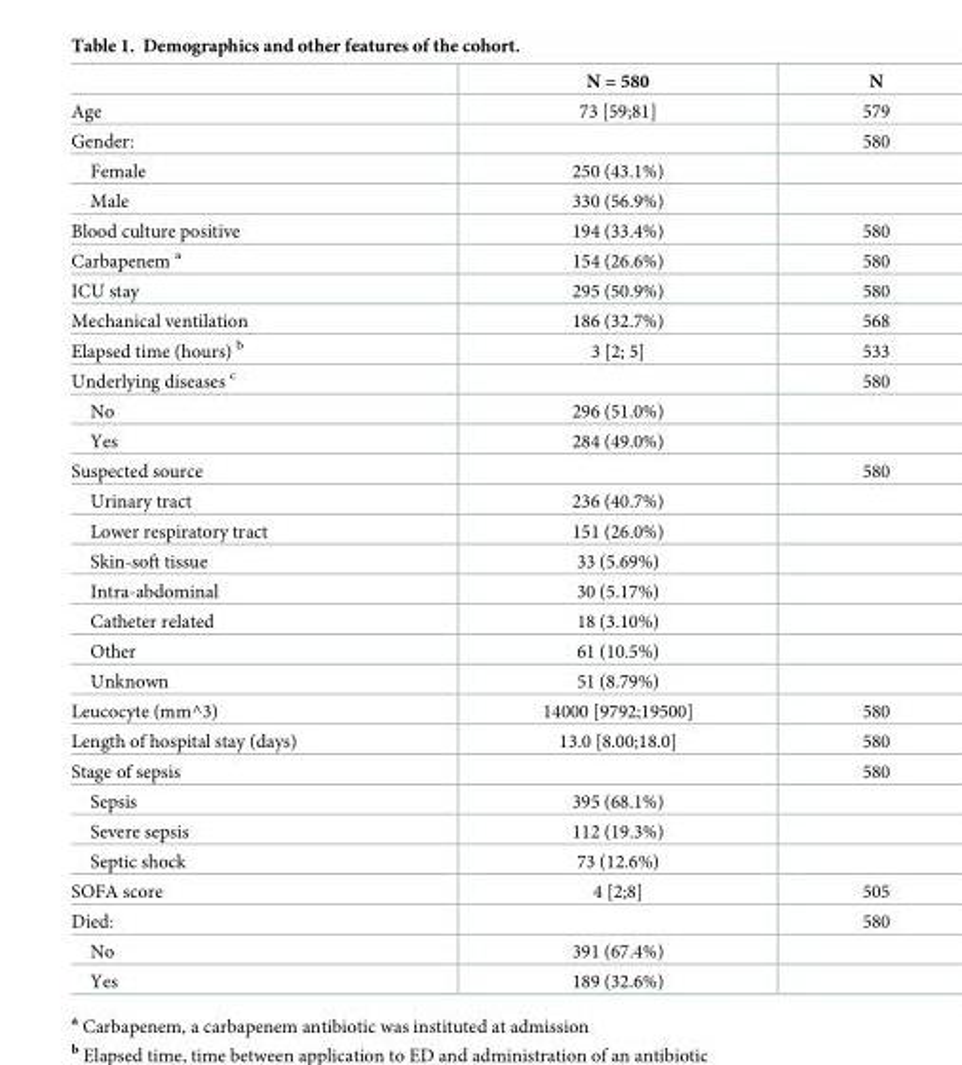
<table><thead><tr><td></td><td>N = 580</td><td>N</td></tr></thead><tbody><tr><td>Age</td><td>73 [59;81]</td><td>579</td></tr><tr><td>Gender:</td><td></td><td>580</td></tr><tr><td>Female</td><td>250 (43.1%)</td><td></td></tr><tr><td>Male</td><td>330 (56.9%)</td><td></td></tr><tr><td>Blood culture positive</td><td>194 (33.4%)</td><td>580</td></tr><tr><td>Carbapenem <sup>a</sup></td><td>154 (26.6%)</td><td>580</td></tr><tr><td>ICU stay</td><td>295 (50.9%)</td><td>580</td></tr><tr><td>Mechanical ventilation</td><td>186 (32.7%)</td><td>568</td></tr><tr><td>Elapsed time (hours) <sup>b</sup></td><td>3 [2; 5]</td><td>533</td></tr><tr><td>Underlying diseases <sup>c</sup></td><td></td><td>580</td></tr><tr><td>No</td><td>296 (51.0%)</td><td></td></tr><tr><td>Yes</td><td>284 (49.0%)</td><td></td></tr><tr><td>Suspected source</td><td></td><td>580</td></tr><tr><td>Urinary tract</td><td>236 (40.7%)</td><td></td></tr><tr><td>Lower respiratory tract</td><td>151 (26.0%)</td><td></td></tr><tr><td>Skin-soft tissue</td><td>33 (5.69%)</td><td></td></tr><tr><td>Intra-abdominal</td><td>30 (5.17%)</td><td></td></tr><tr><td>Catheter related</td><td>18 (3.10%)</td><td></td></tr><tr><td>Other</td><td>61 (10.5%)</td><td></td></tr><tr><td>Unknown</td><td>51 (8.79%)</td><td></td></tr><tr><td>Leucocyte (mm^3)</td><td>14000 [9792;19500]</td><td>580</td></tr><tr><td>Length of hospital stay (days)</td><td>13.0 [8.00;18.0]</td><td>580</td></tr><tr><td>Stage of sepsis</td><td></td><td>580</td></tr><tr><td>Sepsis</td><td>395 (68.1%)</td><td></td></tr><tr><td>Severe sepsis</td><td>112 (19.3%)</td><td></td></tr><tr><td>Septic shock</td><td>73 (12.6%)</td><td></td></tr><tr><td>SOFA score</td><td>4 [2;8]</td><td>505</td></tr><tr><td>Died:</td><td></td><td>580</td></tr><tr><td>No</td><td>391 (67.4%)</td><td></td></tr><tr><td>Yes</td><td>189 (32.6%)</td><td></td></tr></tbody></table>